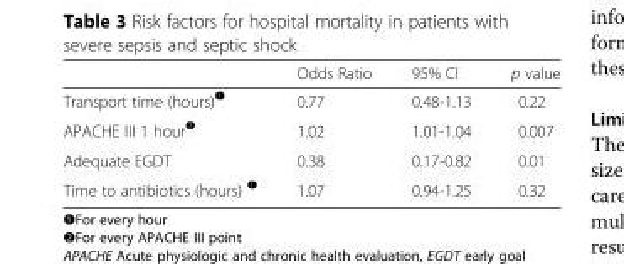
<table><thead><tr><td></td><td>Odds Ratio</td><td>95% CI</td><td>p value</td></tr></thead><tbody><tr><td>Transport time (hours)<sup>❶</sup></td><td>0.77</td><td>0.48-1.13</td><td>0.22</td></tr><tr><td>APACHE III 1 hour<sup>❷</sup></td><td>1.02</td><td>1.01-1.04</td><td>0.007</td></tr><tr><td>Adequate EGDT</td><td>0.38</td><td>0.17-0.82</td><td>0.01</td></tr><tr><td>Time to antibiotics (hours) <sup>❶</sup></td><td>1.07</td><td>0.94-1.25</td><td>0.32</td></tr></tbody></table>